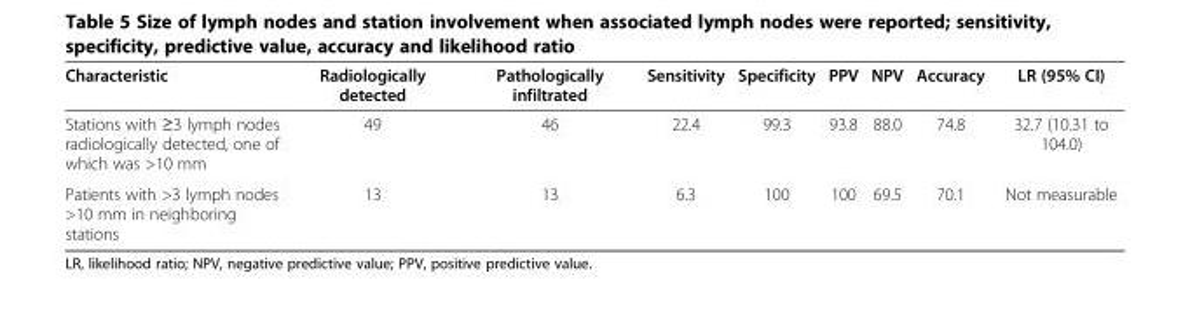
<table><thead><tr><td>Characteristic</td><td>Radiologically detected</td><td>Pathologically infiltrated</td><td>Sensitivity</td><td>Specificity</td><td>PPV</td><td>NPV</td><td>Accuracy</td><td>LR (95% CI)</td></tr></thead><tbody><tr><td>Stations with ≥3 lymph nodes radiologically detected, one of which was &gt;10 mm</td><td>49</td><td>46</td><td>22.4</td><td>99.3</td><td>93.8</td><td>88.0</td><td>74.8</td><td>32.7 (10.31 to 104.0)</td></tr><tr><td>Patients with &gt;3 lymph nodes &gt;10 mm in neighboring stations</td><td>13</td><td>13</td><td>6.3</td><td>100</td><td>100</td><td>69.5</td><td>70.1</td><td>Not measurable</td></tr></tbody></table>